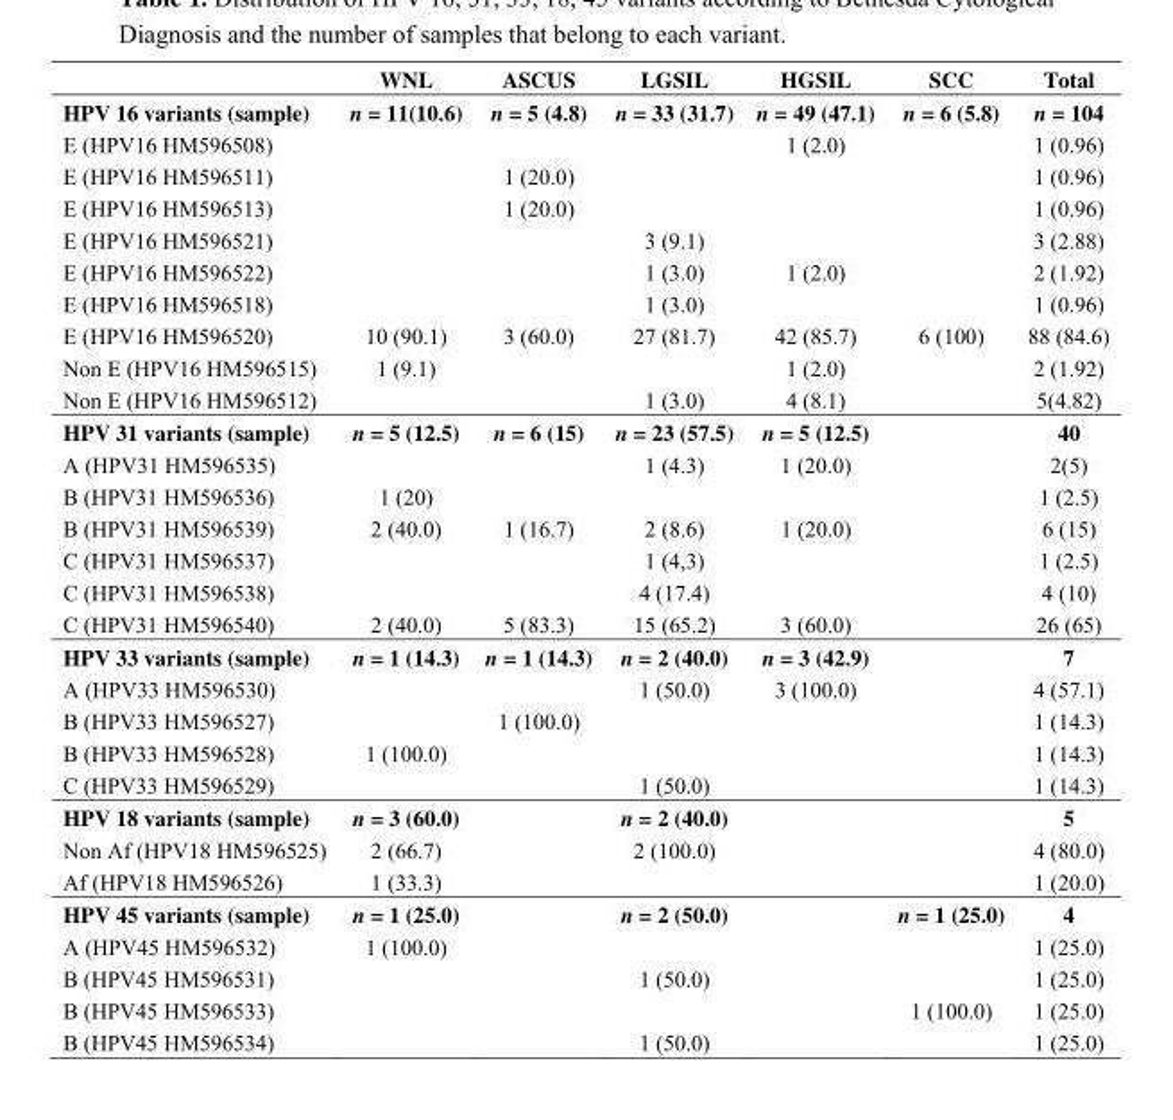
<table><thead><tr><td></td><td>WNL</td><td>ASCUS</td><td>LGSIL</td><td>HGSIL</td><td>SCC</td><td>Total</td></tr></thead><tbody><tr><td>HPV 16 variants (sample)</td><td>n = 11(10.6)</td><td>n = 5 (4.8)</td><td>n = 33 (31.7)</td><td>n = 49 (47.1)</td><td>n = 6 (5.8)</td><td>n = 104</td></tr><tr><td>E (HPV16 HM596508)</td><td></td><td></td><td></td><td>1 (2.0)</td><td></td><td>1 (0.96)</td></tr><tr><td>E (HPV16 HM596511)</td><td></td><td>1 (20.0)</td><td></td><td></td><td></td><td>1 (0.96)</td></tr><tr><td>E (HPV16 HM596513)</td><td></td><td>1 (20.0)</td><td></td><td></td><td></td><td>1 (0.96)</td></tr><tr><td>E (HPV16 HM596521)</td><td></td><td></td><td>3 (9.1)</td><td></td><td></td><td>3 (2.88)</td></tr><tr><td>E (HPV16 HM596522)</td><td></td><td></td><td>1 (3.0)</td><td>1 (2.0)</td><td></td><td>2 (1.92)</td></tr><tr><td>E (HPV16 HM596518)</td><td></td><td></td><td>1 (3.0)</td><td></td><td></td><td>1 (0.96)</td></tr><tr><td>E (HPV16 HM596520)</td><td>10 (90.1)</td><td>3 (60.0)</td><td>27 (81.7)</td><td>42 (85.7)</td><td>6 (100)</td><td>88 (84.6)</td></tr><tr><td>Non E (HPV16 HM596515)</td><td>1 (9.1)</td><td></td><td></td><td>1 (2.0)</td><td></td><td>2 (1.92)</td></tr><tr><td>Non E (HPV16 HM596512)</td><td></td><td></td><td>1 (3.0)</td><td>4 (8.1)</td><td></td><td>5(4.82)</td></tr><tr><td>HPV 31 variants (sample)</td><td>n = 5 (12.5)</td><td>n = 6 (15)</td><td>n = 23 (57.5)</td><td>n = 5 (12.5)</td><td></td><td>40</td></tr><tr><td>A (HPV31 HM596535)</td><td></td><td></td><td>1 (4.3)</td><td>1 (20.0)</td><td></td><td>2(5)</td></tr><tr><td>B (HPV31 HM596536)</td><td>1 (20)</td><td></td><td></td><td></td><td></td><td>1 (2.5)</td></tr><tr><td>B (HPV31 HM596539)</td><td>2 (40.0)</td><td>1 (16.7)</td><td>2 (8.6)</td><td>1 (20.0)</td><td></td><td>6 (15)</td></tr><tr><td>C (HPV31 HM596537)</td><td></td><td></td><td>1 (4,3)</td><td></td><td></td><td>1 (2.5)</td></tr><tr><td>C (HPV31 HM596538)</td><td></td><td></td><td>4 (17.4)</td><td></td><td></td><td>4 (10)</td></tr><tr><td>C (HPV31 HM596540)</td><td>2 (40.0)</td><td>5 (83.3)</td><td>15 (65.2)</td><td>3 (60.0)</td><td></td><td>26 (65)</td></tr><tr><td>HPV 33 variants (sample)</td><td>n = 1 (14.3)</td><td>n = 1 (14.3)</td><td>n = 2 (40.0)</td><td>n = 3 (42.9)</td><td></td><td>7</td></tr><tr><td>A (HPV33 HM596530)</td><td></td><td></td><td>1 (50.0)</td><td>3 (100.0)</td><td></td><td>4 (57.1)</td></tr><tr><td>B (HPV33 HM596527)</td><td></td><td>1 (100.0)</td><td></td><td></td><td></td><td>1 (14.3)</td></tr><tr><td>B (HPV33 HM596528)</td><td>1 (100.0)</td><td></td><td></td><td></td><td></td><td>1 (14.3)</td></tr><tr><td>C (HPV33 HM596529)</td><td></td><td></td><td>1 (50.0)</td><td></td><td></td><td>1 (14.3)</td></tr><tr><td>HPV 18 variants (sample)</td><td>n = 3 (60.0)</td><td></td><td>n = 2 (40.0)</td><td></td><td></td><td>5</td></tr><tr><td>Non Af (HPV18 HM596525)</td><td>2 (66.7)</td><td></td><td>2 (100.0)</td><td></td><td></td><td>4 (80.0)</td></tr><tr><td>Af (HPV18 HM596526)</td><td>1 (33.3)</td><td></td><td></td><td></td><td></td><td>1 (20.0)</td></tr><tr><td>HPV 45 variants (sample)</td><td>n = 1 (25.0)</td><td></td><td>n = 2 (50.0)</td><td></td><td>n = 1 (25.0)</td><td>4</td></tr><tr><td>A (HPV45 HM596532)</td><td>1 (100.0)</td><td></td><td></td><td></td><td></td><td>1 (25.0)</td></tr><tr><td>B (HPV45 HM596531)</td><td></td><td></td><td>1 (50.0)</td><td></td><td></td><td>1 (25.0)</td></tr><tr><td>B (HPV45 HM596533)</td><td></td><td></td><td></td><td></td><td>1 (100.0)</td><td>1 (25.0)</td></tr><tr><td>B (HPV45 HM596534)</td><td></td><td></td><td>1 (50.0)</td><td></td><td></td><td>1 (25.0)</td></tr></tbody></table>